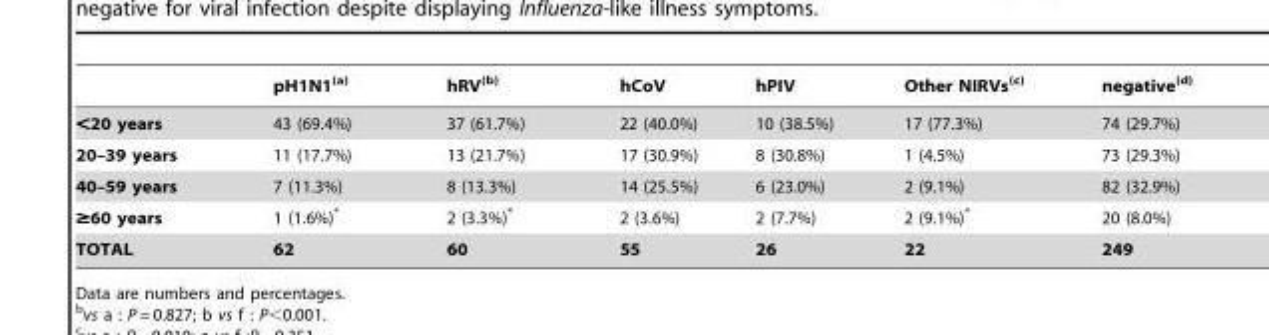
<table><thead><tr><td></td><td>pH1N1<sup>(a)</sup></td><td>hRV<sup>(b)</sup></td><td>hCoV</td><td>hPIV</td><td>Other NIRVs<sup>(c)</sup></td><td>negative<sup>(d)</sup></td></tr></thead><tbody><tr><td>&lt;20 years</td><td>43 (69.4%)</td><td>37 (61.7%)</td><td>22 (40.0%)</td><td>10 (38.5%)</td><td>17 (77.3%)</td><td>74 (29.7%)</td></tr><tr><td>20–39 years</td><td>11 (17.7%)</td><td>13 (21.7%)</td><td>17 (30.9%)</td><td>8 (30.8%)</td><td>1 (4.5%)</td><td>73 (29.3%)</td></tr><tr><td>40–59 years</td><td>7 (11.3%)</td><td>8 (13.3%)</td><td>14 (25.5%)</td><td>6 (23.0%)</td><td>2 (9.1%)</td><td>82 (32.9%)</td></tr><tr><td>≥60 years</td><td>1 (1.6%)*</td><td>2 (3.3%)*</td><td>2 (3.6%)</td><td>2 (7.7%)</td><td>2 (9.1%)*</td><td>20 (8.0%)</td></tr><tr><td>TOTAL</td><td>62</td><td>60</td><td>55</td><td>26</td><td>22</td><td>249</td></tr></tbody></table>